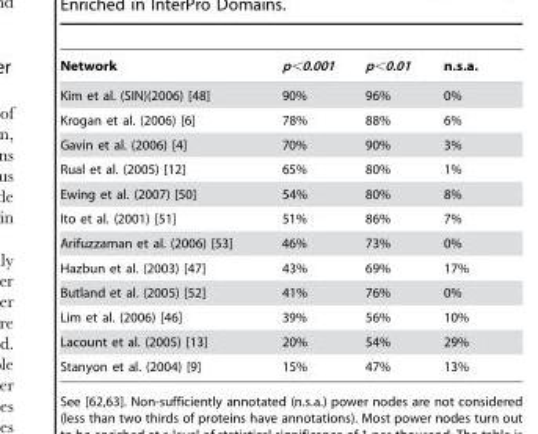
<table><thead><tr><td>Network</td><td>p&lt;0.001</td><td>p&lt;0.01</td><td>n.s.a.</td></tr></thead><tbody><tr><td>Kim et al. (SIN)(2006) [48]</td><td>90%</td><td>96%</td><td>0%</td></tr><tr><td>Krogan et al. (2006) [6]</td><td>78%</td><td>88%</td><td>6%</td></tr><tr><td>Gavin et al. (2006) [4]</td><td>70%</td><td>90%</td><td>3%</td></tr><tr><td>Rual et al. (2005) [12]</td><td>65%</td><td>80%</td><td>1%</td></tr><tr><td>Ewing et al. (2007) [50]</td><td>54%</td><td>80%</td><td>8%</td></tr><tr><td>Ito et al. (2001) [51]</td><td>51%</td><td>86%</td><td>7%</td></tr><tr><td>Arifuzzaman et al. (2006) [53]</td><td>46%</td><td>73%</td><td>0%</td></tr><tr><td>Hazbun et al. (2003) [47]</td><td>43%</td><td>69%</td><td>17%</td></tr><tr><td>Butland et al. (2005) [52]</td><td>41%</td><td>76%</td><td>0%</td></tr><tr><td>Lim et al. (2006) [46]</td><td>39%</td><td>56%</td><td>10%</td></tr><tr><td>Lacount et al. (2005) [13]</td><td>20%</td><td>54%</td><td>29%</td></tr><tr><td>Stanyon et al. (2004) [9]</td><td>15%</td><td>47%</td><td>13%</td></tr></tbody></table>